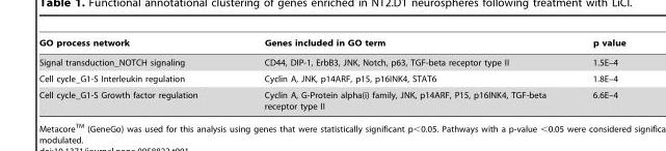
<table><thead><tr><td>GO process network</td><td>Genes included in GO term</td><td>p value</td></tr></thead><tbody><tr><td>Signal transduction_NOTCH signaling</td><td>CD44, DIP-1, ErbB3, JNK, Notch, p63, TGF-beta receptor type II</td><td>1.5E–4</td></tr><tr><td>Cell cycle_G1-S Interleukin regulation</td><td>Cyclin A, JNK, p14ARF, p15, p16INK4, STAT6</td><td>1.8E–4</td></tr><tr><td>Cell cycle_G1-S Growth factor regulation</td><td>Cyclin A, G-Protein alpha(i) family, JNK, p14ARF, P15, p16INK4, TGF-beta receptor type II</td><td>6.6E–4</td></tr></tbody></table>